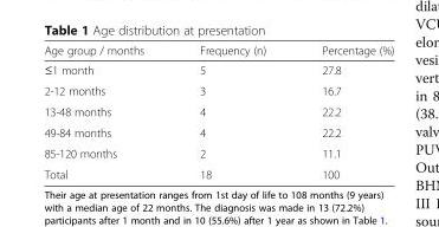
<table><thead><tr><td>Age group / months</td><td>Frequency (n)</td><td>Percentage (%)</td></tr></thead><tbody><tr><td>≤1 month</td><td>5</td><td>27.8</td></tr><tr><td>2-12 months</td><td>3</td><td>16.7</td></tr><tr><td>13-48 months</td><td>4</td><td>22.2</td></tr><tr><td>49-84 months</td><td>4</td><td>22.2</td></tr><tr><td>85-120 months</td><td>2</td><td>11.1</td></tr><tr><td>Total</td><td>18</td><td>100</td></tr></tbody></table>